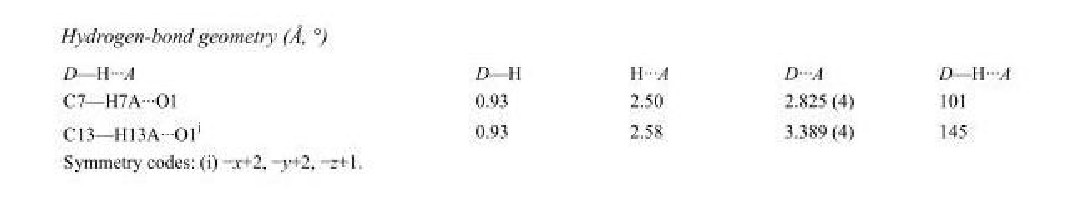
<table><tbody><tr><td>D—H···A</td><td>D—H</td><td>H···A</td><td>D···A</td><td>D—H···A</td></tr><tr><td>C7—H7A···O1</td><td>0.93</td><td>2.50</td><td>2.825 (4)</td><td>101</td></tr><tr><td>C13—H13A···O1<sup>i</sup></td><td>0.93</td><td>2.58</td><td>3.389 (4)</td><td>145</td></tr></tbody></table>